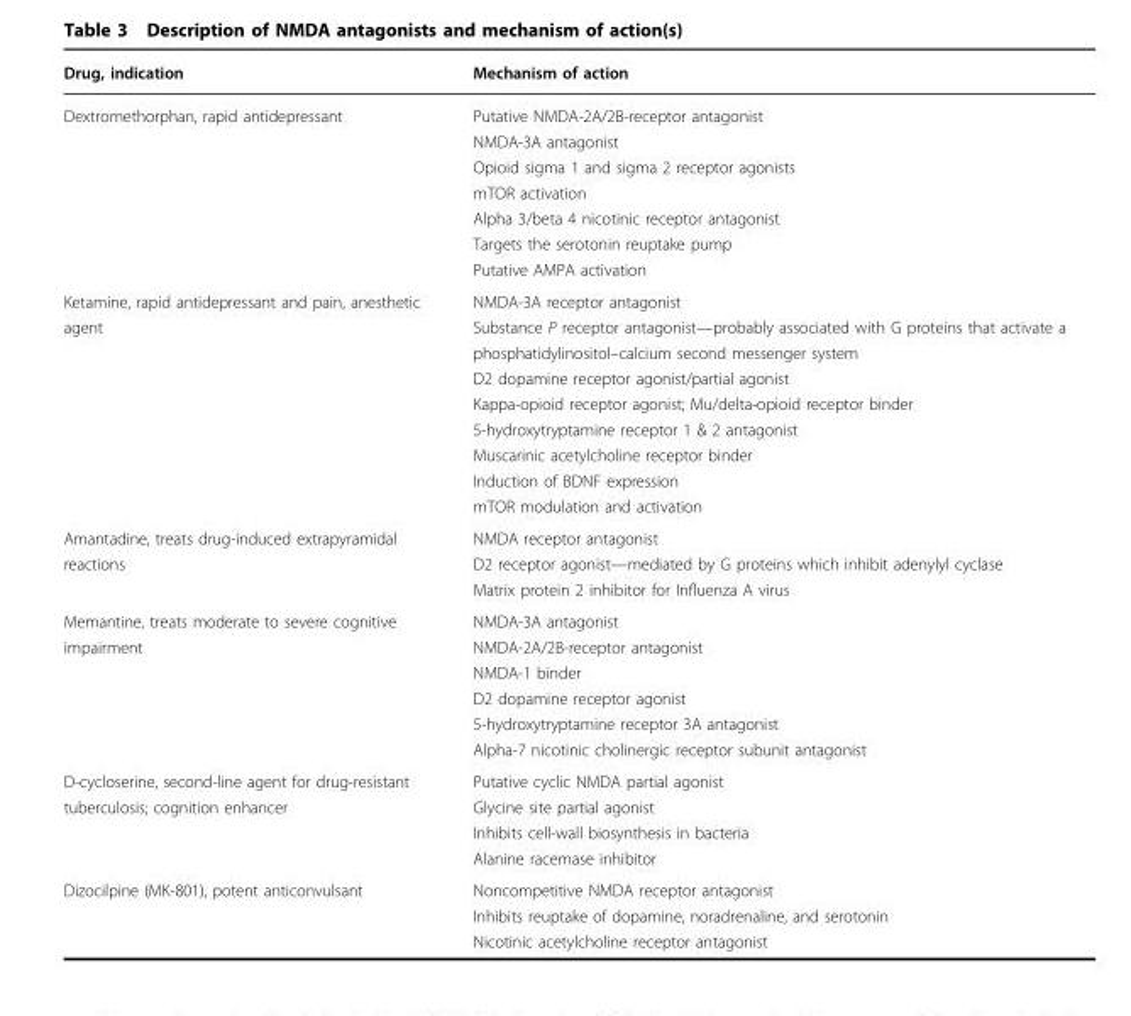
<table><thead><tr><td>Drug, indication</td><td>Mechanism of action</td></tr></thead><tbody><tr><td>Dextromethorphan, rapid antidepressant</td><td>Putative NMDA-2A/2B-receptor antagonist NMDA-3A antagonist Opioid sigma 1 and sigma 2 receptor agonists mTOR activation Alpha 3/beta 4 nicotinic receptor antagonist Targets the serotonin reuptake pump Putative AMPA activation</td></tr><tr><td>Ketamine, rapid antidepressant and pain, anesthetic agent</td><td>NMDA-3A receptor antagonist Substance P receptor antagonist—probably associated with G proteins that activate a phosphatidylinositol–calcium second messenger system D2 dopamine receptor agonist/partial agonist Kappa-opioid receptor agonist; Mu/delta-opioid receptor binder 5-hydroxytryptamine receptor 1 &amp; 2 antagonist Muscarinic acetylcholine receptor binder Induction of BDNF expression mTOR modulation and activation</td></tr><tr><td>Amantadine, treats drug-induced extrapyramidal reactions</td><td>NMDA receptor antagonist D2 receptor agonist—mediated by G proteins which inhibit adenylyl cyclase Matrix protein 2 inhibitor for Influenza A virus</td></tr><tr><td>Memantine, treats moderate to severe cognitive impairment</td><td>NMDA-3A antagonist NMDA-2A/2B-receptor antagonist NMDA-1 binder D2 dopamine receptor agonist 5-hydroxytryptamine receptor 3A antagonist Alpha-7 nicotinic cholinergic receptor subunit antagonist</td></tr><tr><td>D-cycloserine, second-line agent for drug-resistant tuberculosis; cognition enhancer</td><td>Putative cyclic NMDA partial agonist Glycine site partial agonist Inhibits cell-wall biosynthesis in bacteria Alanine racemase inhibitor</td></tr><tr><td>Dizocilpine (MK-801), potent anticonvulsant</td><td>Noncompetitive NMDA receptor antagonist Inhibits reuptake of dopamine, noradrenaline, and serotonin Nicotinic acetylcholine receptor antagonist</td></tr></tbody></table>